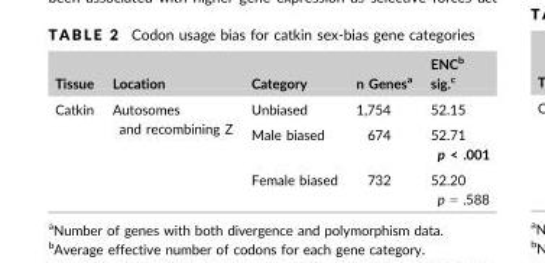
<table><thead><tr><td>Tissue</td><td>Location</td><td>Category</td><td>n Genes<sup>a</sup></td><td>ENC<sup>b</sup> sig.<sup>c</sup></td></tr></thead><tbody><tr><td rowspan="3">Catkin</td><td rowspan="3">Autosomes and recombining Z</td><td>Unbiased</td><td>1,754</td><td>52.15</td></tr><tr><td>Male biased</td><td>674</td><td>52.71 p &lt; .001</td></tr><tr><td>Female biased</td><td>732</td><td>52.20 p = .588</td></tr></tbody></table>